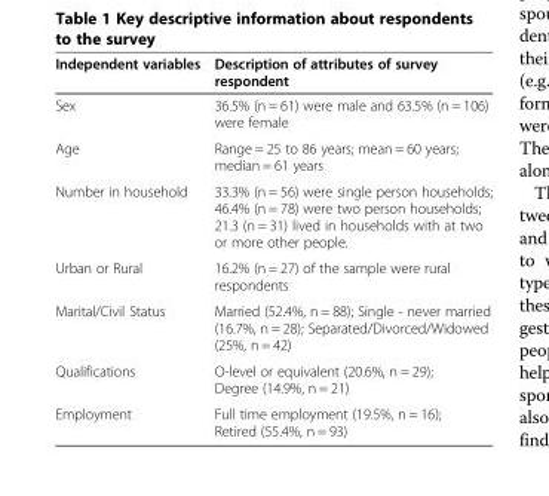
<table><thead><tr><td>Independent variables</td><td>Description of attributes of survey respondent</td></tr></thead><tbody><tr><td>Sex</td><td>36.5% (n = 61) were male and 63.5% (n = 106) were female</td></tr><tr><td>Age</td><td>Range = 25 to 86 years; mean = 60 years; median = 61 years</td></tr><tr><td>Number in household</td><td>33.3% (n = 56) were single person households; 46.4% (n = 78) were two person households; 21.3 (n = 31) lived in households with at two or more other people.</td></tr><tr><td>Urban or Rural</td><td>16.2% (n = 27) of the sample were rural respondents</td></tr><tr><td>Marital/Civil Status</td><td>Married (52.4%, n = 88); Single - never married (16.7%, n = 28); Separated/Divorced/Widowed (25%, n = 42)</td></tr><tr><td>Qualifications</td><td>O-level or equivalent (20.6%, n = 29); Degree (14.9%, n = 21)</td></tr><tr><td>Employment</td><td>Full time employment (19.5%, n = 16); Retired (55.4%, n = 93)</td></tr></tbody></table>